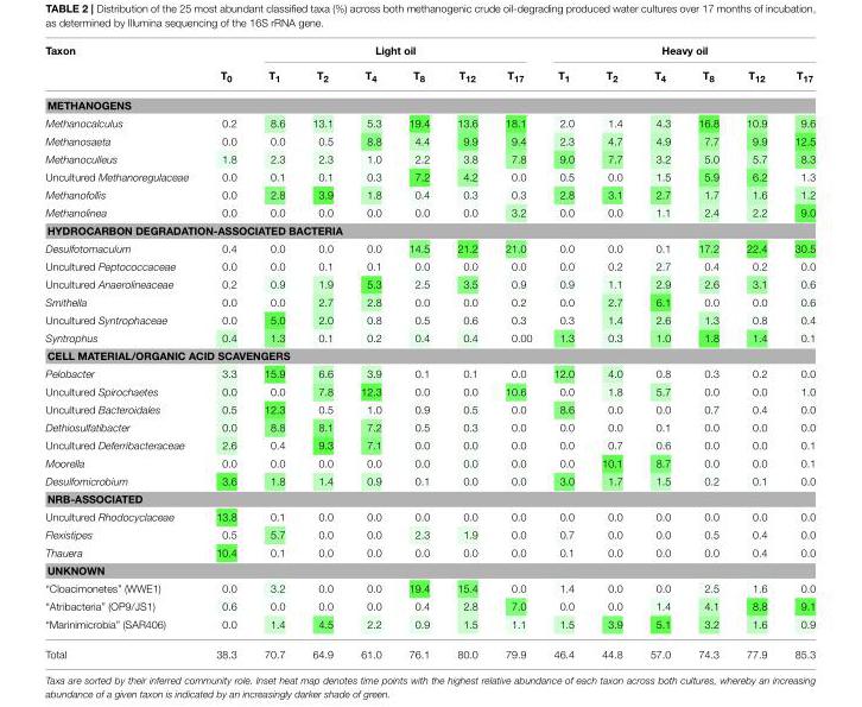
<table><thead><tr><td rowspan="2">Taxon</td><td rowspan="2">T<sub>0</sub></td><td colspan="6">Light oil</td><td colspan="6">Heavy oil</td></tr><tr><td>T<sub>1</sub></td><td>T<sub>2</sub></td><td>T<sub>4</sub></td><td>T<sub>8</sub></td><td>T<sub>12</sub></td><td>T<sub>17</sub></td><td>T<sub>1</sub></td><td>T<sub>2</sub></td><td>T<sub>4</sub></td><td>T<sub>8</sub></td><td>T<sub>12</sub></td><td>T<sub>17</sub></td></tr></thead><tbody><tr><td colspan="14">METHANOGENS</td></tr><tr><td>Methanocalculus</td><td>0.2</td><td>8.6</td><td>13.1</td><td>5.3</td><td>19.4</td><td>13.6</td><td>18.1</td><td>2.0</td><td>1.4</td><td>4.3</td><td>16.8</td><td>10.9</td><td>9.6</td></tr><tr><td>Methanosaeta</td><td>0.0</td><td>0.0</td><td>0.5</td><td>8.8</td><td>4.4</td><td>9.9</td><td>9.4</td><td>2.3</td><td>4.7</td><td>4.9</td><td>7.7</td><td>9.9</td><td>12.5</td></tr><tr><td>Methanoculleus</td><td>1.8</td><td>2.3</td><td>2.3</td><td>1.0</td><td>2.2</td><td>3.8</td><td>7.8</td><td>9.0</td><td>7.7</td><td>3.2</td><td>5.0</td><td>5.7</td><td>8.3</td></tr><tr><td>Uncultured Methanoregulaceae</td><td>0.0</td><td>0.1</td><td>0.1</td><td>0.3</td><td>7.2</td><td>4.2</td><td>0.0</td><td>0.5</td><td>0.0</td><td>1.5</td><td>5.9</td><td>6.2</td><td>1.3</td></tr><tr><td>Methanofollis</td><td>0.0</td><td>2.8</td><td>3.9</td><td>1.8</td><td>0.4</td><td>0.3</td><td>0.3</td><td>2.8</td><td>3.1</td><td>2.7</td><td>1.7</td><td>1.6</td><td>1.2</td></tr><tr><td>Methanolinea</td><td>0.0</td><td>0.0</td><td>0.0</td><td>0.0</td><td>0.0</td><td>0.0</td><td>3.2</td><td>0.0</td><td>0.0</td><td>1.1</td><td>2.4</td><td>2.2</td><td>9.0</td></tr><tr><td colspan="14">HYDROCARBON DEGRADATION-ASSOCIATED BACTERIA</td></tr><tr><td>Desulfotomaculum</td><td>0.4</td><td>0.0</td><td>0.0</td><td>0.0</td><td>14.5</td><td>21.2</td><td>21.0</td><td>0.0</td><td>0.0</td><td>0.1</td><td>17.2</td><td>22.4</td><td>30.5</td></tr><tr><td>Uncultured Peptococcaceae</td><td>0.0</td><td>0.0</td><td>0.1</td><td>0.1</td><td>0.0</td><td>0.0</td><td>0.0</td><td>0.0</td><td>0.2</td><td>2.7</td><td>0.4</td><td>0.2</td><td>0.0</td></tr><tr><td>Uncultured Anaerolineaceae</td><td>0.2</td><td>0.9</td><td>1.9</td><td>5.3</td><td>2.5</td><td>3.5</td><td>0.9</td><td>0.9</td><td>1.1</td><td>2.9</td><td>2.6</td><td>3.1</td><td>0.6</td></tr><tr><td>Smithella</td><td>0.0</td><td>0.0</td><td>2.7</td><td>2.8</td><td>0.0</td><td>0.0</td><td>0.2</td><td>0.0</td><td>2.7</td><td>6.1</td><td>0.0</td><td>0.0</td><td>0.6</td></tr><tr><td>Uncultured Syntrophaceae</td><td>0.0</td><td>5.0</td><td>2.0</td><td>0.8</td><td>0.5</td><td>0.6</td><td>0.3</td><td>0.3</td><td>1.4</td><td>2.6</td><td>1.3</td><td>0.8</td><td>0.4</td></tr><tr><td>Syntrophus</td><td>0.4</td><td>1.3</td><td>0.1</td><td>0.2</td><td>0.4</td><td>0.4</td><td>0.00</td><td>1.3</td><td>0.3</td><td>1.0</td><td>1.8</td><td>1.4</td><td>0.1</td></tr><tr><td colspan="14">CELL MATERIAL/ORGANIC ACID SCAVENGERS</td></tr><tr><td>Pelobacter</td><td>3.3</td><td>15.9</td><td>6.6</td><td>3.9</td><td>0.1</td><td>0.1</td><td>0.0</td><td>12.0</td><td>4.0</td><td>0.8</td><td>0.3</td><td>0.2</td><td>0.0</td></tr><tr><td>Uncultured Spirochaetes</td><td>0.0</td><td>0.0</td><td>7.8</td><td>12.3</td><td>0.0</td><td>0.0</td><td>10.6</td><td>0.0</td><td>1.8</td><td>5.7</td><td>0.0</td><td>0.0</td><td>1.0</td></tr><tr><td>Uncultured Bacteroidales</td><td>0.5</td><td>12.3</td><td>0.5</td><td>1.0</td><td>0.9</td><td>0.5</td><td>0.0</td><td>8.6</td><td>0.0</td><td>0.0</td><td>0.7</td><td>0.4</td><td>0.0</td></tr><tr><td>Dethiosulfatibacter</td><td>0.0</td><td>8.8</td><td>8.1</td><td>7.2</td><td>0.5</td><td>0.3</td><td>0.0</td><td>0.0</td><td>0.0</td><td>0.1</td><td>0.0</td><td>0.0</td><td>0.0</td></tr><tr><td>Uncultured Deferribacteraceae</td><td>2.6</td><td>0.4</td><td>9.3</td><td>7.1</td><td>0.0</td><td>0.0</td><td>0.0</td><td>0.0</td><td>0.7</td><td>0.6</td><td>0.0</td><td>0.0</td><td>0.1</td></tr><tr><td>Moorella</td><td>0.0</td><td>0.0</td><td>0.0</td><td>0.0</td><td>0.0</td><td>0.0</td><td>0.0</td><td>0.0</td><td>10.1</td><td>8.7</td><td>0.0</td><td>0.0</td><td>0.1</td></tr><tr><td>Desulfomicrobium</td><td>3.6</td><td>1.8</td><td>1.4</td><td>0.9</td><td>0.1</td><td>0.0</td><td>0.0</td><td>3.0</td><td>1.7</td><td>1.5</td><td>0.2</td><td>0.1</td><td>0.0</td></tr><tr><td colspan="14">NRB-ASSOCIATED</td></tr><tr><td>Uncultured Rhodocyclaceae</td><td>13.8</td><td>0.1</td><td>0.0</td><td>0.0</td><td>0.0</td><td>0.0</td><td>0.0</td><td>0.0</td><td>0.0</td><td>0.0</td><td>0.0</td><td>0.0</td><td>0.0</td></tr><tr><td>Flexistipes</td><td>0.5</td><td>5.7</td><td>0.0</td><td>0.0</td><td>2.3</td><td>1.9</td><td>0.0</td><td>0.7</td><td>0.0</td><td>0.0</td><td>0.5</td><td>0.4</td><td>0.0</td></tr><tr><td>Thauera</td><td>10.4</td><td>0.1</td><td>0.0</td><td>0.0</td><td>0.0</td><td>0.0</td><td>0.0</td><td>0.1</td><td>0.0</td><td>0.0</td><td>0.0</td><td>0.4</td><td>0.0</td></tr><tr><td colspan="14">UNKNOWN</td></tr><tr><td>“Cloacimonetes” (WWE1)</td><td>0.0</td><td>3.2</td><td>0.0</td><td>0.0</td><td>19.4</td><td>15.4</td><td>0.0</td><td>1.4</td><td>0.0</td><td>0.0</td><td>2.5</td><td>1.6</td><td>0.0</td></tr><tr><td>“Atribacteria” (OP9/JS1)</td><td>0.6</td><td>0.0</td><td>0.0</td><td>0.0</td><td>0.4</td><td>2.8</td><td>7.0</td><td>0.0</td><td>0.0</td><td>1.4</td><td>4.1</td><td>8.8</td><td>9.1</td></tr><tr><td>“Marinimicrobia” (SAR406)</td><td>0.0</td><td>1.4</td><td>4.5</td><td>2.2</td><td>0.9</td><td>1.5</td><td>1.1</td><td>1.5</td><td>3.9</td><td>5.1</td><td>3.2</td><td>1.6</td><td>0.9</td></tr><tr><td>Total</td><td>38.3</td><td>70.7</td><td>64.9</td><td>61.0</td><td>76.1</td><td>80.0</td><td>79.9</td><td>46.4</td><td>44.8</td><td>57.0</td><td>74.3</td><td>77.9</td><td>85.3</td></tr></tbody></table>